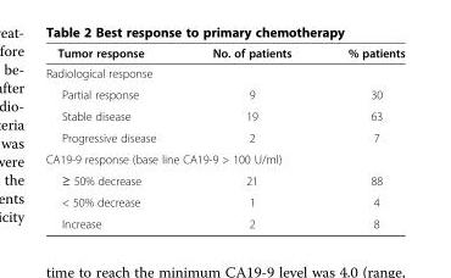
<table><thead><tr><td>Tumor response</td><td>No. of patients</td><td>% patients</td></tr></thead><tbody><tr><td colspan="3">Radiological response</td></tr><tr><td>Partial response</td><td>9</td><td>30</td></tr><tr><td>Stable disease</td><td>19</td><td>63</td></tr><tr><td>Progressive disease</td><td>2</td><td>7</td></tr><tr><td colspan="3">CA19-9 response (base line CA19-9 &gt; 100 U/ml)</td></tr><tr><td>≥ 50% decrease</td><td>21</td><td>88</td></tr><tr><td>&lt; 50% decrease</td><td>1</td><td>4</td></tr><tr><td>Increase</td><td>2</td><td>8</td></tr></tbody></table>